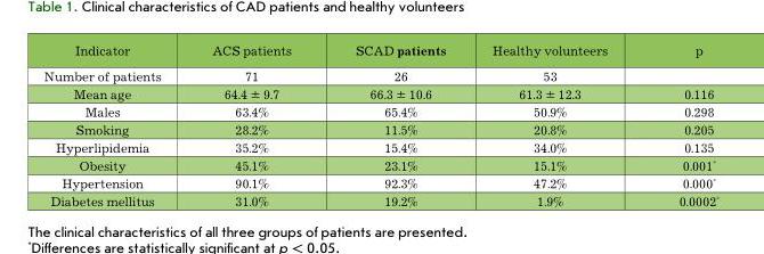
<table><thead><tr><td>Indicator</td><td>ACS patients</td><td>SCAD patients</td><td>Healthy volunteers</td><td>p</td></tr></thead><tbody><tr><td>Number of patients</td><td>71</td><td>26</td><td>53</td><td></td></tr><tr><td>Mean age</td><td>64.4 ± 9.7</td><td>66.3 ± 10.6</td><td>61.3 ± 12.3</td><td>0.116</td></tr><tr><td>Males</td><td>63.4%</td><td>65.4%</td><td>50.9%</td><td>0.298</td></tr><tr><td>Smoking</td><td>28.2%</td><td>11.5%</td><td>20.8%</td><td>0.205</td></tr><tr><td>Hyperlipidemia</td><td>35.2%</td><td>15.4%</td><td>34.0%</td><td>0.135</td></tr><tr><td>Obesity</td><td>45.1%</td><td>23.1%</td><td>15.1%</td><td>0.001*</td></tr><tr><td>Hypertension</td><td>90.1%</td><td>92.3%</td><td>47.2%</td><td>0.000*</td></tr><tr><td>Diabetes mellitus</td><td>31.0%</td><td>19.2%</td><td>1.9%</td><td>0.0002*</td></tr></tbody></table>